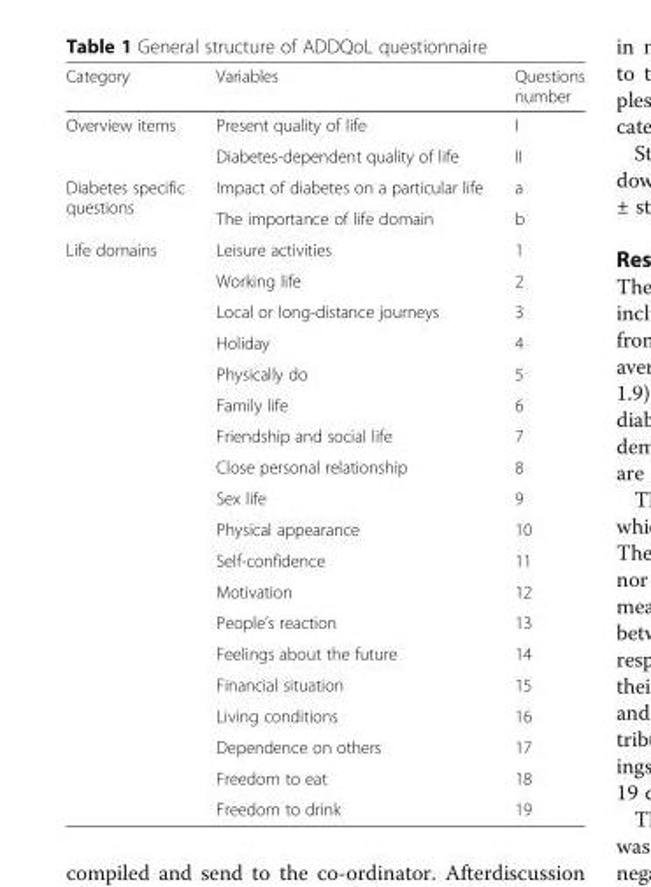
<table><thead><tr><td>Category</td><td>Variables</td><td>Questions number</td></tr></thead><tbody><tr><td rowspan="2">Overview items</td><td>Present quality of life</td><td>I</td></tr><tr><td>Diabetes-dependent quality of life</td><td>II</td></tr><tr><td rowspan="2">Diabetes specific questions</td><td>Impact of diabetes on a particular life</td><td>a</td></tr><tr><td>The importance of life domain</td><td>b</td></tr><tr><td rowspan="19">Life domains</td><td>Leisure activities</td><td>1</td></tr><tr><td>Working life</td><td>2</td></tr><tr><td>Local or long-distance journeys</td><td>3</td></tr><tr><td>Holiday</td><td>4</td></tr><tr><td>Physically do</td><td>5</td></tr><tr><td>Family life</td><td>6</td></tr><tr><td>Friendship and social life</td><td>7</td></tr><tr><td>Close personal relationship</td><td>8</td></tr><tr><td>Sex life</td><td>9</td></tr><tr><td>Physical appearance</td><td>10</td></tr><tr><td>Self-confidence</td><td>11</td></tr><tr><td>Motivation</td><td>12</td></tr><tr><td>People’s reaction</td><td>13</td></tr><tr><td>Feelings about the future</td><td>14</td></tr><tr><td>Financial situation</td><td>15</td></tr><tr><td>Living conditions</td><td>16</td></tr><tr><td>Dependence on others</td><td>17</td></tr><tr><td>Freedom to eat</td><td>18</td></tr><tr><td>Freedom to drink</td><td>19</td></tr></tbody></table>